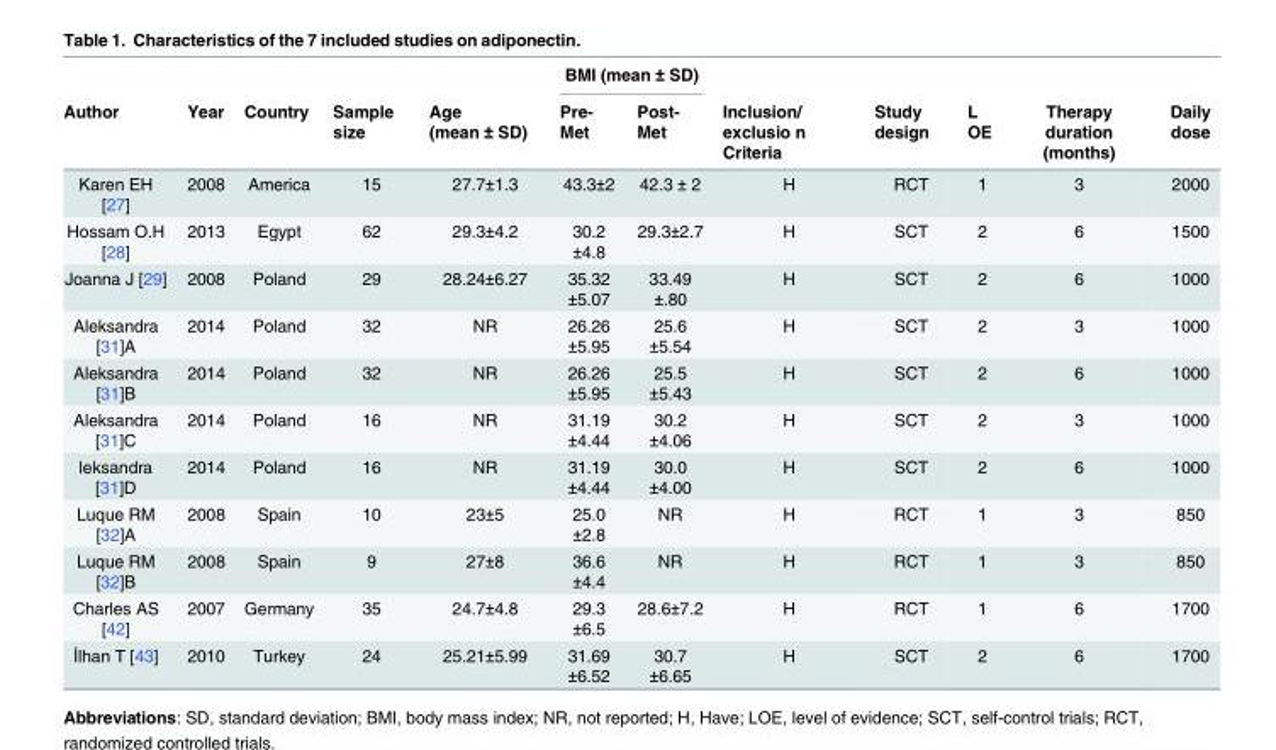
<table><thead><tr><td rowspan="2">Author</td><td rowspan="2">Year</td><td rowspan="2">Country</td><td rowspan="2">Sample size</td><td rowspan="2">Age (mean ± SD)</td><td colspan="2">BMI (mean ± SD)</td><td rowspan="2">Inclusion/ exclusio n Criteria</td><td rowspan="2">Study design</td><td rowspan="2">L OE</td><td rowspan="2">Therapy duration (months)</td><td rowspan="2">Daily dose</td></tr><tr><td>Pre- Met</td><td>Post- Met</td></tr></thead><tbody><tr><td>Karen EH [27]</td><td>2008</td><td>America</td><td>15</td><td>27.7±1.3</td><td>43.3±2</td><td>42.3 ± 2</td><td>H</td><td>RCT</td><td>1</td><td>3</td><td>2000</td></tr><tr><td>Hossam O.H [28]</td><td>2013</td><td>Egypt</td><td>62</td><td>29.3±4.2</td><td>30.2 ±4.8</td><td>29.3±2.7</td><td>H</td><td>SCT</td><td>2</td><td>6</td><td>1500</td></tr><tr><td>Joanna J [29]</td><td>2008</td><td>Poland</td><td>29</td><td>28.24±6.27</td><td>35.32 ±5.07</td><td>33.49 ±.80</td><td>H</td><td>SCT</td><td>2</td><td>6</td><td>1000</td></tr><tr><td>Aleksandra [31]A</td><td>2014</td><td>Poland</td><td>32</td><td>NR</td><td>26.26 ±5.95</td><td>25.6 ±5.54</td><td>H</td><td>SCT</td><td>2</td><td>3</td><td>1000</td></tr><tr><td>Aleksandra [31]B</td><td>2014</td><td>Poland</td><td>32</td><td>NR</td><td>26.26 ±5.95</td><td>25.5 ±5.43</td><td>H</td><td>SCT</td><td>2</td><td>6</td><td>1000</td></tr><tr><td>Aleksandra [31]C</td><td>2014</td><td>Poland</td><td>16</td><td>NR</td><td>31.19 ±4.44</td><td>30.2 ±4.06</td><td>H</td><td>SCT</td><td>2</td><td>3</td><td>1000</td></tr><tr><td>leksandra [31]D</td><td>2014</td><td>Poland</td><td>16</td><td>NR</td><td>31.19 ±4.44</td><td>30.0 ±4.00</td><td>H</td><td>SCT</td><td>2</td><td>6</td><td>1000</td></tr><tr><td>Luque RM [32]A</td><td>2008</td><td>Spain</td><td>10</td><td>23±5</td><td>25.0 ±2.8</td><td>NR</td><td>H</td><td>RCT</td><td>1</td><td>3</td><td>850</td></tr><tr><td>Luque RM [32]B</td><td>2008</td><td>Spain</td><td>9</td><td>27±8</td><td>36.6 ±4.4</td><td>NR</td><td>H</td><td>RCT</td><td>1</td><td>3</td><td>850</td></tr><tr><td>Charles AS [42]</td><td>2007</td><td>Germany</td><td>35</td><td>24.7±4.8</td><td>29.3 ±6.5</td><td>28.6±7.2</td><td>H</td><td>RCT</td><td>1</td><td>6</td><td>1700</td></tr><tr><td>İlhan T [43]</td><td>2010</td><td>Turkey</td><td>24</td><td>25.21±5.99</td><td>31.69 ±6.52</td><td>30.7 ±6.65</td><td>H</td><td>SCT</td><td>2</td><td>6</td><td>1700</td></tr></tbody></table>